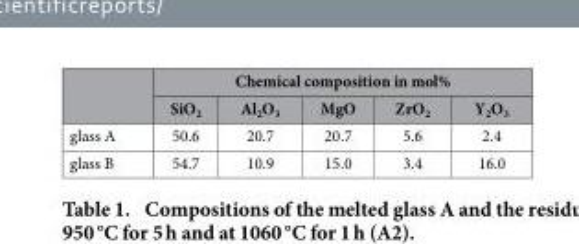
<table><thead><tr><td rowspan="2"></td><td colspan="5">Chemical composition in mol%</td></tr><tr><td>SiO<sub>2</sub></td><td>Al<sub>2</sub>O<sub>3</sub></td><td>MgO</td><td>ZrO<sub>2</sub></td><td>Y<sub>2</sub>O<sub>3</sub></td></tr></thead><tbody><tr><td>glass A</td><td>50.6</td><td>20.7</td><td>20.7</td><td>5.6</td><td>2.4</td></tr><tr><td>glass B</td><td>54.7</td><td>10.9</td><td>15.0</td><td>3.4</td><td>16.0</td></tr></tbody></table>